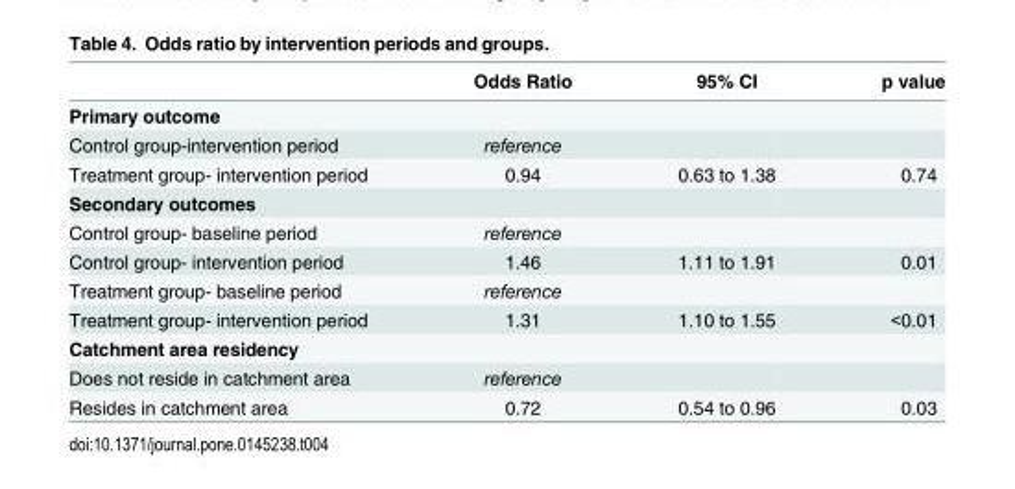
<table><thead><tr><td></td><td>Odds Ratio</td><td>95% CI</td><td>p value</td></tr></thead><tbody><tr><td colspan="4">Primary outcome</td></tr><tr><td>Control group-intervention period</td><td>reference</td><td></td><td></td></tr><tr><td>Treatment group- intervention period</td><td>0.94</td><td>0.63 to 1.38</td><td>0.74</td></tr><tr><td colspan="4">Secondary outcomes</td></tr><tr><td>Control group- baseline period</td><td>reference</td><td></td><td></td></tr><tr><td>Control group- intervention period</td><td>1.46</td><td>1.11 to 1.91</td><td>0.01</td></tr><tr><td>Treatment group- baseline period</td><td>reference</td><td></td><td></td></tr><tr><td>Treatment group- intervention period</td><td>1.31</td><td>1.10 to 1.55</td><td>&lt;0.01</td></tr><tr><td colspan="4">Catchment area residency</td></tr><tr><td>Does not reside in catchment area</td><td>reference</td><td></td><td></td></tr><tr><td>Resides in catchment area</td><td>0.72</td><td>0.54 to 0.96</td><td>0.03</td></tr></tbody></table>